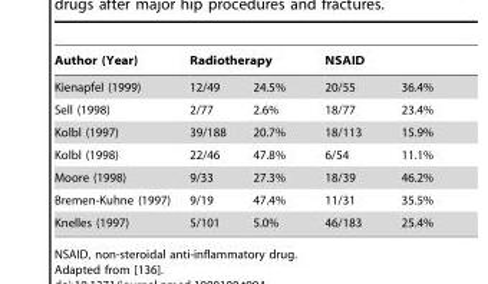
<table><thead><tr><td rowspan="2">Author (Year) Kienapfel (1999)</td><td colspan="2">Radiotherapy</td><td colspan="2">NSAID</td></tr><tr><td>12/49</td><td>24.5%</td><td>20/55</td><td>36.4%</td></tr></thead><tbody><tr><td>Sell (1998)</td><td>2/77</td><td>2.6%</td><td>18/77</td><td>23.4%</td></tr><tr><td>Kolbl (1997)</td><td>39/188</td><td>20.7%</td><td>18/113</td><td>15.9%</td></tr><tr><td>Kolbl (1998)</td><td>22/46</td><td>47.8%</td><td>6/54</td><td>11.1%</td></tr><tr><td>Moore (1998)</td><td>9/33</td><td>27.3%</td><td>18/39</td><td>46.2%</td></tr><tr><td>Bremen-Kuhne (1997)</td><td>9/19</td><td>47.4%</td><td>11/31</td><td>35.5%</td></tr><tr><td>Knelles (1997)</td><td>5/101</td><td>5.0%</td><td>46/183</td><td>25.4%</td></tr></tbody></table>